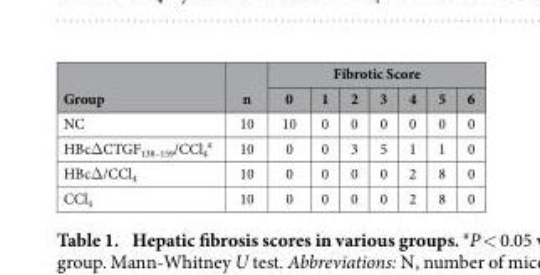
<table><thead><tr><td rowspan="2">Group</td><td rowspan="2">n</td><td colspan="7">Fibrotic Score</td></tr><tr><td>0</td><td>1</td><td>2</td><td>3</td><td>4</td><td>5</td><td>6</td></tr></thead><tbody><tr><td>NC</td><td>10</td><td>10</td><td>0</td><td>0</td><td>0</td><td>0</td><td>0</td><td>0</td></tr><tr><td>HBcΔ CTGF<sub>138–159</sub>/CCl<sub>4</sub> #</td><td>10</td><td>0</td><td>0</td><td>3</td><td>5</td><td>1</td><td>1</td><td>0</td></tr><tr><td>HBcΔ /CCl<sub>4</sub></td><td>10</td><td>0</td><td>0</td><td>0</td><td>0</td><td>2</td><td>8</td><td>0</td></tr><tr><td>CCl<sub>4</sub></td><td>10</td><td>0</td><td>0</td><td>0</td><td>0</td><td>2</td><td>8</td><td>0</td></tr></tbody></table>